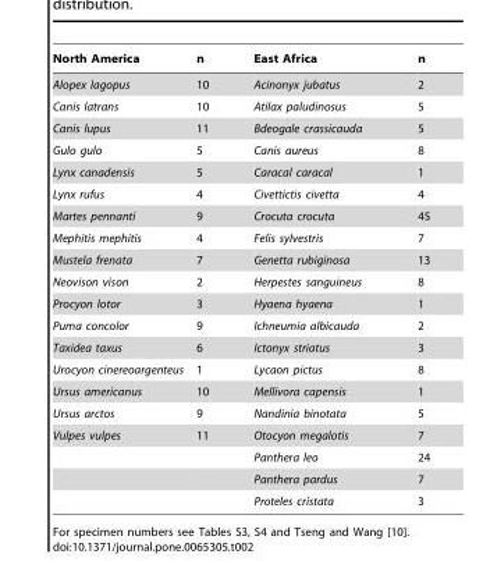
<table><thead><tr><td>North America</td><td>n</td><td>East Africa</td><td>n</td></tr></thead><tbody><tr><td>Alopex lagopus</td><td>10</td><td>Acinonyx jubatus</td><td>2</td></tr><tr><td>Canis latrans</td><td>10</td><td>Atilax paludinosus</td><td>5</td></tr><tr><td>Canis lupus</td><td>11</td><td>Bdeogale crassicauda</td><td>5</td></tr><tr><td>Gulo gulo</td><td>5</td><td>Canis aureus</td><td>8</td></tr><tr><td>Lynx canadensis</td><td>5</td><td>Caracal caracal</td><td>1</td></tr><tr><td>Lynx rufus</td><td>4</td><td>Civettictis civetta</td><td>4</td></tr><tr><td>Martes pennanti</td><td>9</td><td>Crocuta crocuta</td><td>45</td></tr><tr><td>Mephitis mephitis</td><td>4</td><td>Felis sylvestris</td><td>7</td></tr><tr><td>Mustela frenata</td><td>7</td><td>Genetta rubiginosa</td><td>13</td></tr><tr><td>Neovison vison</td><td>2</td><td>Herpestes sanguineus</td><td>8</td></tr><tr><td>Procyon lotor</td><td>3</td><td>Hyaena hyaena</td><td>1</td></tr><tr><td>Puma concolor</td><td>9</td><td>Ichneumia albicauda</td><td>2</td></tr><tr><td>Taxidea taxus</td><td>6</td><td>Ictonyx striatus</td><td>3</td></tr><tr><td>Urocyon cinereoargenteus</td><td>1</td><td>Lycaon pictus</td><td>8</td></tr><tr><td>Ursus americanus</td><td>10</td><td>Mellivora capensis</td><td>1</td></tr><tr><td>Ursus arctos</td><td>9</td><td>Nandinia binotata</td><td>5</td></tr><tr><td rowspan="4">Vulpes vulpes</td><td>11</td><td>Otocyon megalotis</td><td>7</td></tr><tr><td></td><td>Panthera leo</td><td>24</td></tr><tr><td></td><td>Panthera pardus</td><td>7</td></tr><tr><td></td><td>Proteles cristata</td><td>3</td></tr></tbody></table>